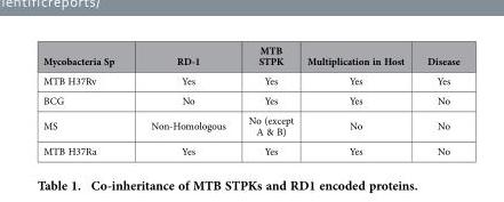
<table><thead><tr><td>Mycobacteria Sp</td><td>RD-1</td><td>MTB STPK</td><td>Multiplication in Host</td><td>Disease</td></tr></thead><tbody><tr><td>MTB H37Rv</td><td>Yes</td><td>Yes</td><td>Yes</td><td>Yes</td></tr><tr><td>BCG</td><td>No</td><td>Yes</td><td>Yes</td><td>No</td></tr><tr><td>MS</td><td>Non-Homologous</td><td>No (except A &amp; B)</td><td>No</td><td>No</td></tr><tr><td>MTB H37Ra</td><td>Yes</td><td>Yes</td><td>Yes</td><td>No</td></tr></tbody></table>